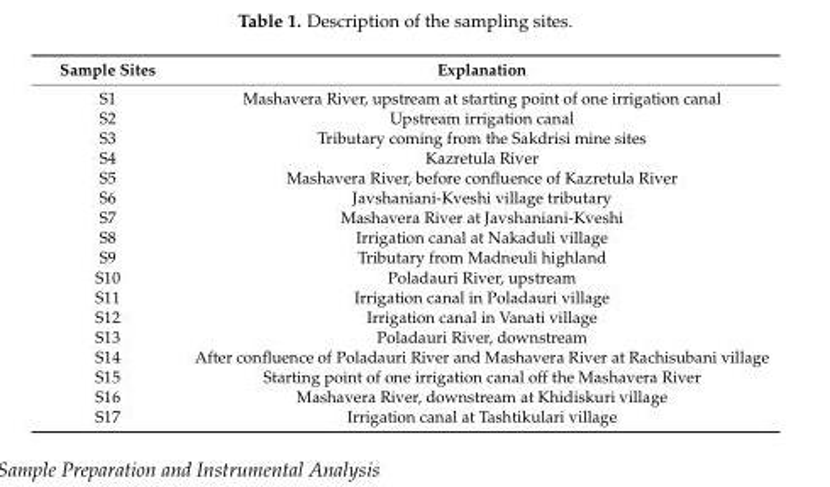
<table><thead><tr><td>Sample Sites</td><td>Explanation</td></tr></thead><tbody><tr><td>S1</td><td>Mashavera River, upstream at starting point of one irrigation canal</td></tr><tr><td>S2</td><td>Upstream irrigation canal</td></tr><tr><td>S3</td><td>Tributary coming from the Sakdrisi mine sites</td></tr><tr><td>S4</td><td>Kazretula River</td></tr><tr><td>S5</td><td>Mashavera River, before confluence of Kazretula River</td></tr><tr><td>S6</td><td>Javshaniani-Kveshi village tributary</td></tr><tr><td>S7</td><td>Mashavera River at Javshaniani-Kveshi</td></tr><tr><td>S8</td><td>Irrigation canal at Nakaduli village</td></tr><tr><td>S9</td><td>Tributary from Madneuli highland</td></tr><tr><td>S10</td><td>Poladauri River, upstream</td></tr><tr><td>S11</td><td>Irrigation canal in Poladauri village</td></tr><tr><td>S12</td><td>Irrigation canal in Vanati village</td></tr><tr><td>S13</td><td>Poladauri River, downstream</td></tr><tr><td>S14</td><td>After confluence of Poladauri River and Mashavera River at Rachisubani village</td></tr><tr><td>S15</td><td>Starting point of one irrigation canal off the Mashavera River</td></tr><tr><td>S16</td><td>Mashavera River, downstream at Khidiskuri village</td></tr><tr><td>S17</td><td>Irrigation canal at Tashtikulari village</td></tr></tbody></table>